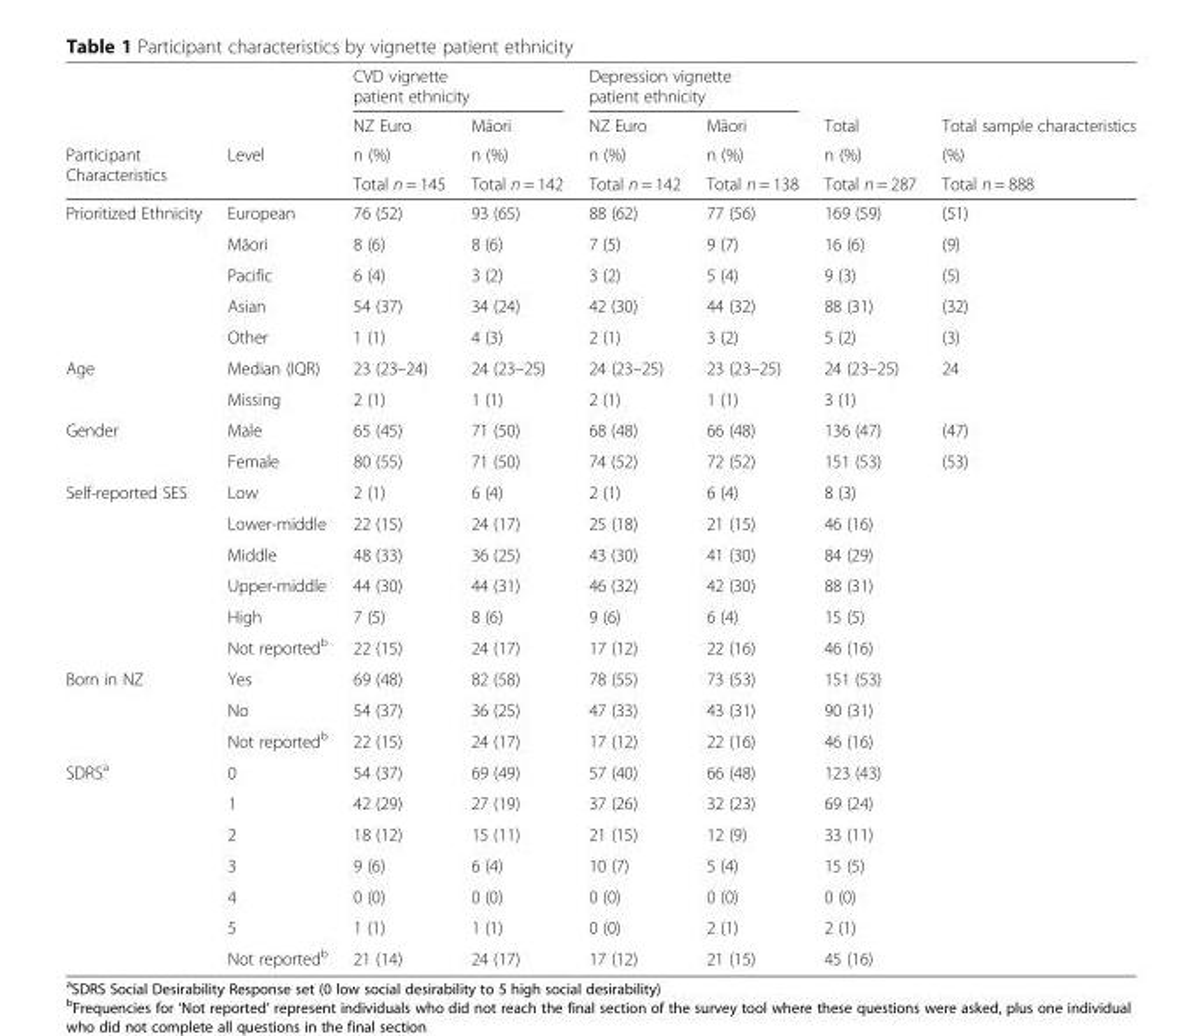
<table><thead><tr><td rowspan="4">Participant Characteristics</td><td rowspan="4">Level</td><td colspan="2">CVD vignette patient ethnicity</td><td colspan="2">Depression vignette patient ethnicity</td><td rowspan="4">Total n (%) Total n = 287</td><td rowspan="4">Total sample characteristics (%) Total n = 888</td></tr><tr><td rowspan="3">NZ Euro n (%) Total n = 145</td><td rowspan="3">Māori n (%) Total n = 142</td><td rowspan="3">NZ Euro n (%) Total n = 142</td><td rowspan="3">Māori n (%) Total n = 138</td></tr><tr></tr><tr></tr></thead><tbody><tr><td rowspan="5">Prioritized Ethnicity</td><td>European</td><td>76 (52)</td><td>93 (65)</td><td>88 (62)</td><td>77 (56)</td><td>169 (59)</td><td>(51)</td></tr><tr><td>Māori</td><td>8 (6)</td><td>8 (6)</td><td>7 (5)</td><td>9 (7)</td><td>16 (6)</td><td>(9)</td></tr><tr><td>Pacific</td><td>6 (4)</td><td>3 (2)</td><td>3 (2)</td><td>5 (4)</td><td>9 (3)</td><td>(5)</td></tr><tr><td>Asian</td><td>54 (37)</td><td>34 (24)</td><td>42 (30)</td><td>44 (32)</td><td>88 (31)</td><td>(32)</td></tr><tr><td>Other</td><td>1 (1)</td><td>4 (3)</td><td>2 (1)</td><td>3 (2)</td><td>5 (2)</td><td>(3)</td></tr><tr><td rowspan="2">Age</td><td>Median (IQR)</td><td>23 (23–24)</td><td>24 (23–25)</td><td>24 (23–25)</td><td>23 (23–25)</td><td>24 (23–25)</td><td>24</td></tr><tr><td>Missing</td><td>2 (1)</td><td>1 (1)</td><td>2 (1)</td><td>1 (1)</td><td>3 (1)</td><td></td></tr><tr><td rowspan="2">Gender</td><td>Male</td><td>65 (45)</td><td>71 (50)</td><td>68 (48)</td><td>66 (48)</td><td>136 (47)</td><td>(47)</td></tr><tr><td>Female</td><td>80 (55)</td><td>71 (50)</td><td>74 (52)</td><td>72 (52)</td><td>151 (53)</td><td>(53)</td></tr><tr><td rowspan="6">Self-reported SES</td><td>Low</td><td>2 (1)</td><td>6 (4)</td><td>2 (1)</td><td>6 (4)</td><td>8 (3)</td><td></td></tr><tr><td>Lower-middle</td><td>22 (15)</td><td>24 (17)</td><td>25 (18)</td><td>21 (15)</td><td>46 (16)</td><td></td></tr><tr><td>Middle</td><td>48 (33)</td><td>36 (25)</td><td>43 (30)</td><td>41 (30)</td><td>84 (29)</td><td></td></tr><tr><td>Upper-middle</td><td>44 (30)</td><td>44 (31)</td><td>46 (32)</td><td>42 (30)</td><td>88 (31)</td><td></td></tr><tr><td>High</td><td>7 (5)</td><td>8 (6)</td><td>9 (6)</td><td>6 (4)</td><td>15 (5)</td><td></td></tr><tr><td>Not reported<sup>b</sup></td><td>22 (15)</td><td>24 (17)</td><td>17 (12)</td><td>22 (16)</td><td>46 (16)</td><td></td></tr><tr><td rowspan="3">Born in NZ</td><td>Yes</td><td>69 (48)</td><td>82 (58)</td><td>78 (55)</td><td>73 (53)</td><td>151 (53)</td><td></td></tr><tr><td>No</td><td>54 (37)</td><td>36 (25)</td><td>47 (33)</td><td>43 (31)</td><td>90 (31)</td><td></td></tr><tr><td>Not reported<sup>b</sup></td><td>22 (15)</td><td>24 (17)</td><td>17 (12)</td><td>22 (16)</td><td>46 (16)</td><td></td></tr><tr><td rowspan="7">SDRS<sup>a</sup></td><td>0</td><td>54 (37)</td><td>69 (49)</td><td>57 (40)</td><td>66 (48)</td><td>123 (43)</td><td></td></tr><tr><td>1</td><td>42 (29)</td><td>27 (19)</td><td>37 (26)</td><td>32 (23)</td><td>69 (24)</td><td></td></tr><tr><td>2</td><td>18 (12)</td><td>15 (11)</td><td>21 (15)</td><td>12 (9)</td><td>33 (11)</td><td></td></tr><tr><td>3</td><td>9 (6)</td><td>6 (4)</td><td>10 (7)</td><td>5 (4)</td><td>15 (5)</td><td></td></tr><tr><td>4</td><td>0 (0)</td><td>0 (0)</td><td>0 (0)</td><td>0 (0)</td><td>0 (0)</td><td></td></tr><tr><td>5</td><td>1 (1)</td><td>1 (1)</td><td>0 (0)</td><td>2 (1)</td><td>2 (1)</td><td></td></tr><tr><td>Not reported<sup>b</sup></td><td>21 (14)</td><td>24 (17)</td><td>17 (12)</td><td>21 (15)</td><td>45 (16)</td><td></td></tr></tbody></table>